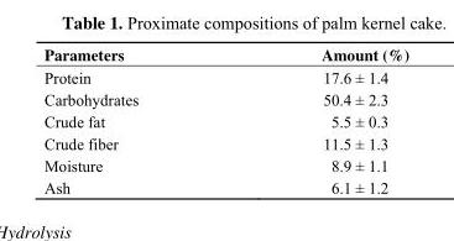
<table><thead><tr><td>Parameters</td><td>Amount (%)</td></tr></thead><tbody><tr><td>Protein</td><td>17.6 ± 1.4</td></tr><tr><td>Carbohydrates</td><td>50.4 ± 2.3</td></tr><tr><td>Crude fat</td><td>5.5 ± 0.3</td></tr><tr><td>Crude fiber</td><td>11.5 ± 1.3</td></tr><tr><td>Moisture</td><td>8.9 ± 1.1</td></tr><tr><td>Ash</td><td>6.1 ± 1.2</td></tr></tbody></table>